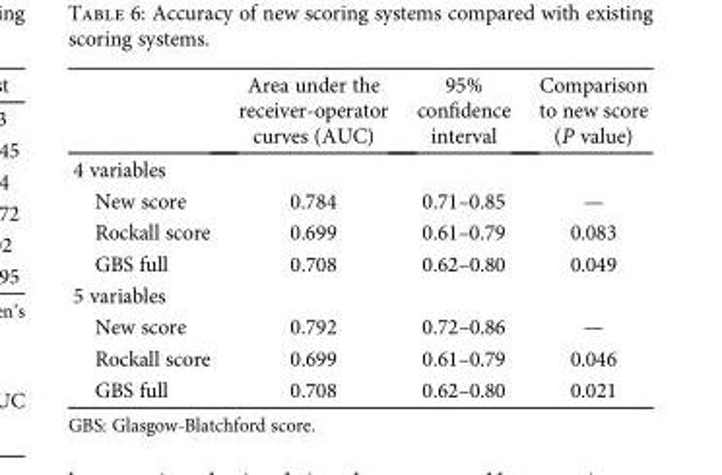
<table><thead><tr><td></td><td>Area under the receiver-operator curves (AUC)</td><td>95% confidence interval</td><td>Comparison to new score (P value)</td></tr></thead><tbody><tr><td colspan="4">4 variables</td></tr><tr><td>New score</td><td>0.784</td><td>0.71–0.85</td><td>—</td></tr><tr><td>Rockall score</td><td>0.699</td><td>0.61–0.79</td><td>0.083</td></tr><tr><td>GBS full</td><td>0.708</td><td>0.62–0.80</td><td>0.049</td></tr><tr><td colspan="4">5 variables</td></tr><tr><td>New score</td><td>0.792</td><td>0.72–0.86</td><td>—</td></tr><tr><td>Rockall score</td><td>0.699</td><td>0.61–0.79</td><td>0.046</td></tr><tr><td>GBS full</td><td>0.708</td><td>0.62–0.80</td><td>0.021</td></tr></tbody></table>